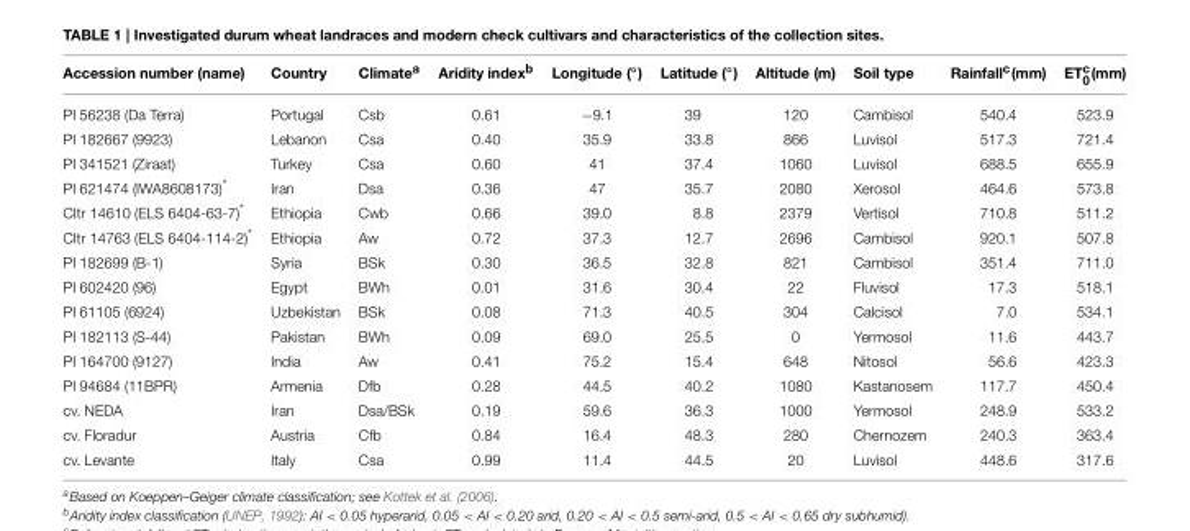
<table><thead><tr><td>Accession number (name)</td><td>Country</td><td>Climate<sup>a</sup></td><td>Aridity index<sup>b</sup></td><td>Longitude (◦)</td><td>Latitude (◦)</td><td>Altitude (m)</td><td>Soil type</td><td>Rainfall<sup>c</sup>(mm)</td><td>ETc 0(mm)</td></tr></thead><tbody><tr><td>PI 56238 (Da Terra)</td><td>Portugal</td><td>Csb</td><td>0.61</td><td>−9.1</td><td>39</td><td>120</td><td>Cambisol</td><td>540.4</td><td>523.9</td></tr><tr><td>PI 182667 (9923)</td><td>Lebanon</td><td>Csa</td><td>0.40</td><td>35.9</td><td>33.8</td><td>866</td><td>Luvisol</td><td>517.3</td><td>721.4</td></tr><tr><td>PI 341521 (Ziraat)</td><td>Turkey</td><td>Csa</td><td>0.60</td><td>41</td><td>37.4</td><td>1060</td><td>Luvisol</td><td>688.5</td><td>655.9</td></tr><tr><td>PI 621474 (IWA8608173)*</td><td>Iran</td><td>Dsa</td><td>0.36</td><td>47</td><td>35.7</td><td>2080</td><td>Xerosol</td><td>464.6</td><td>573.8</td></tr><tr><td>CItr 14610 (ELS 6404-63-7)*</td><td>Ethiopia</td><td>Cwb</td><td>0.66</td><td>39.0</td><td>8.8</td><td>2379</td><td>Vertisol</td><td>710.8</td><td>511.2</td></tr><tr><td>CItr 14763 (ELS 6404-114-2)*</td><td>Ethiopia</td><td>Aw</td><td>0.72</td><td>37.3</td><td>12.7</td><td>2696</td><td>Cambisol</td><td>920.1</td><td>507.8</td></tr><tr><td>PI 182699 (B-1)</td><td>Syria</td><td>BSk</td><td>0.30</td><td>36.5</td><td>32.8</td><td>821</td><td>Cambisol</td><td>351.4</td><td>711.0</td></tr><tr><td>PI 602420 (96)</td><td>Egypt</td><td>BWh</td><td>0.01</td><td>31.6</td><td>30.4</td><td>22</td><td>Fluvisol</td><td>17.3</td><td>518.1</td></tr><tr><td>PI 61105 (6924)</td><td>Uzbekistan</td><td>BSk</td><td>0.08</td><td>71.3</td><td>40.5</td><td>304</td><td>Calcisol</td><td>7.0</td><td>534.1</td></tr><tr><td>PI 182113 (S-44)</td><td>Pakistan</td><td>BWh</td><td>0.09</td><td>69.0</td><td>25.5</td><td>0</td><td>Yermosol</td><td>11.6</td><td>443.7</td></tr><tr><td>PI 164700 (9127)</td><td>India</td><td>Aw</td><td>0.41</td><td>75.2</td><td>15.4</td><td>648</td><td>Nitosol</td><td>56.6</td><td>423.3</td></tr><tr><td>PI 94684 (11BPR)</td><td>Armenia</td><td>Dfb</td><td>0.28</td><td>44.5</td><td>40.2</td><td>1080</td><td>Kastanosem</td><td>117.7</td><td>450.4</td></tr><tr><td>cv. NEDA</td><td>Iran</td><td>Dsa/BSk</td><td>0.19</td><td>59.6</td><td>36.3</td><td>1000</td><td>Yermosol</td><td>248.9</td><td>533.2</td></tr><tr><td>cv. Floradur</td><td>Austria</td><td>Cfb</td><td>0.84</td><td>16.4</td><td>48.3</td><td>280</td><td>Chernozem</td><td>240.3</td><td>363.4</td></tr><tr><td>cv. Levante</td><td>Italy</td><td>Csa</td><td>0.99</td><td>11.4</td><td>44.5</td><td>20</td><td>Luvisol</td><td>448.6</td><td>317.6</td></tr></tbody></table>